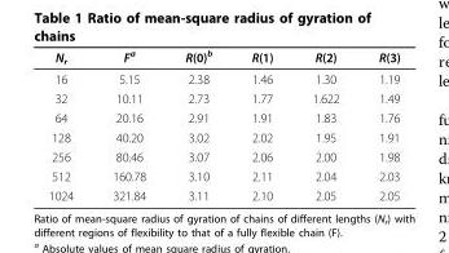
<table><thead><tr><td>N<sub>r</sub></td><td>F<sup>a</sup></td><td>R(0)<sup>b</sup></td><td>R(1)</td><td>R(2)</td><td>R(3)</td></tr></thead><tbody><tr><td>16</td><td>5.15</td><td>2.38</td><td>1.46</td><td>1.30</td><td>1.19</td></tr><tr><td>32</td><td>10.11</td><td>2.73</td><td>1.77</td><td>1.622</td><td>1.49</td></tr><tr><td>64</td><td>20.16</td><td>2.91</td><td>1.91</td><td>1.83</td><td>1.76</td></tr><tr><td>128</td><td>40.20</td><td>3.02</td><td>2.02</td><td>1.95</td><td>1.91</td></tr><tr><td>256</td><td>80.46</td><td>3.07</td><td>2.06</td><td>2.00</td><td>1.98</td></tr><tr><td>512</td><td>160.78</td><td>3.10</td><td>2.11</td><td>2.04</td><td>2.03</td></tr><tr><td>1024</td><td>321.84</td><td>3.11</td><td>2.10</td><td>2.05</td><td>2.05</td></tr></tbody></table>